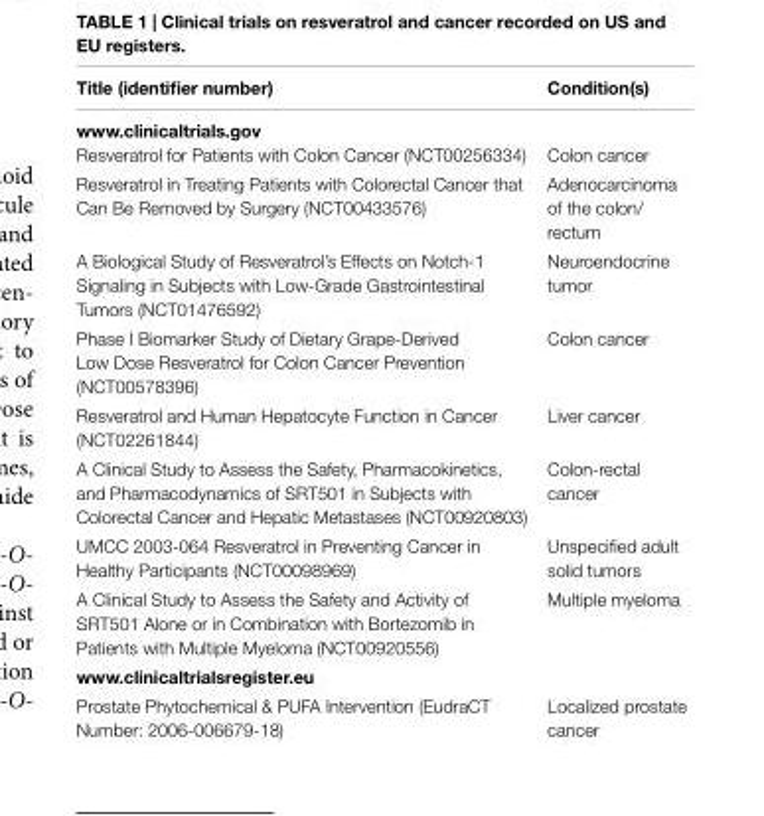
<table><thead><tr><td>Title (identifier number)</td><td>Condition(s)</td></tr></thead><tbody><tr><td colspan="2">www.clinicaltrials.gov</td></tr><tr><td>Resveratrol for Patients with Colon Cancer (NCT00256334)</td><td>Colon cancer</td></tr><tr><td>Resveratrol in Treating Patients with Colorectal Cancer that Can Be Removed by Surgery (NCT00433576)</td><td>Adenocarcinoma of the colon/ rectum</td></tr><tr><td>A Biological Study of Resveratrol’s Effects on Notch-1 Signaling in Subjects with Low-Grade Gastrointestinal Tumors (NCT01476592)</td><td>Neuroendocrine tumor</td></tr><tr><td>Phase I Biomarker Study of Dietary Grape-Derived Low Dose Resveratrol for Colon Cancer Prevention (NCT00578396)</td><td>Colon cancer</td></tr><tr><td>Resveratrol and Human Hepatocyte Function in Cancer (NCT02261844)</td><td>Liver cancer</td></tr><tr><td>A Clinical Study to Assess the Safety, Pharmacokinetics, and Pharmacodynamics of SRT501 in Subjects with Colorectal Cancer and Hepatic Metastases (NCT00920803)</td><td>Colon-rectal cancer</td></tr><tr><td>UMCC 2003-064 Resveratrol in Preventing Cancer in Healthy Participants (NCT00098969)</td><td>Unspecified adult solid tumors</td></tr><tr><td>A Clinical Study to Assess the Safety and Activity of SRT501 Alone or in Combination with Bortezomib in Patients with Multiple Myeloma (NCT00920556)</td><td>Multiple myeloma</td></tr><tr><td colspan="2">www.clinicaltrialsregister.eu</td></tr><tr><td>Prostate Phytochemical &amp; PUFA Intervention (EudraCT Number: 2006-006679-18)</td><td>Localized prostate cancer</td></tr></tbody></table>